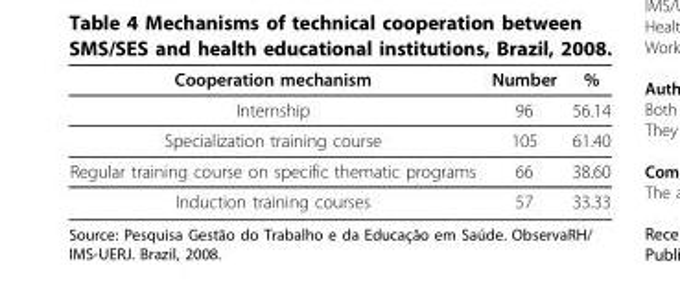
<table><thead><tr><td>Cooperation mechanism</td><td>Number</td><td>%</td></tr></thead><tbody><tr><td>Internship</td><td>96</td><td>56.14</td></tr><tr><td>Specialization training course</td><td>105</td><td>61.40</td></tr><tr><td>Regular training course on specific thematic programs</td><td>66</td><td>38.60</td></tr><tr><td>Induction training courses</td><td>57</td><td>33.33</td></tr></tbody></table>